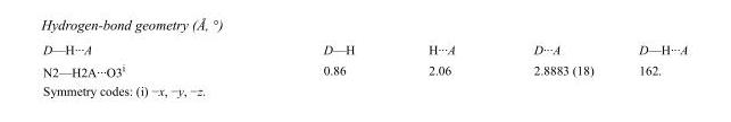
<table><tbody><tr><td>D—H···A</td><td>D—H</td><td>H···A</td><td>D···A</td><td>D—H···A</td></tr><tr><td>N2—H2A···O3<sup>i</sup></td><td>0.86</td><td>2.06</td><td>2.8883 (18)</td><td>162.</td></tr></tbody></table>